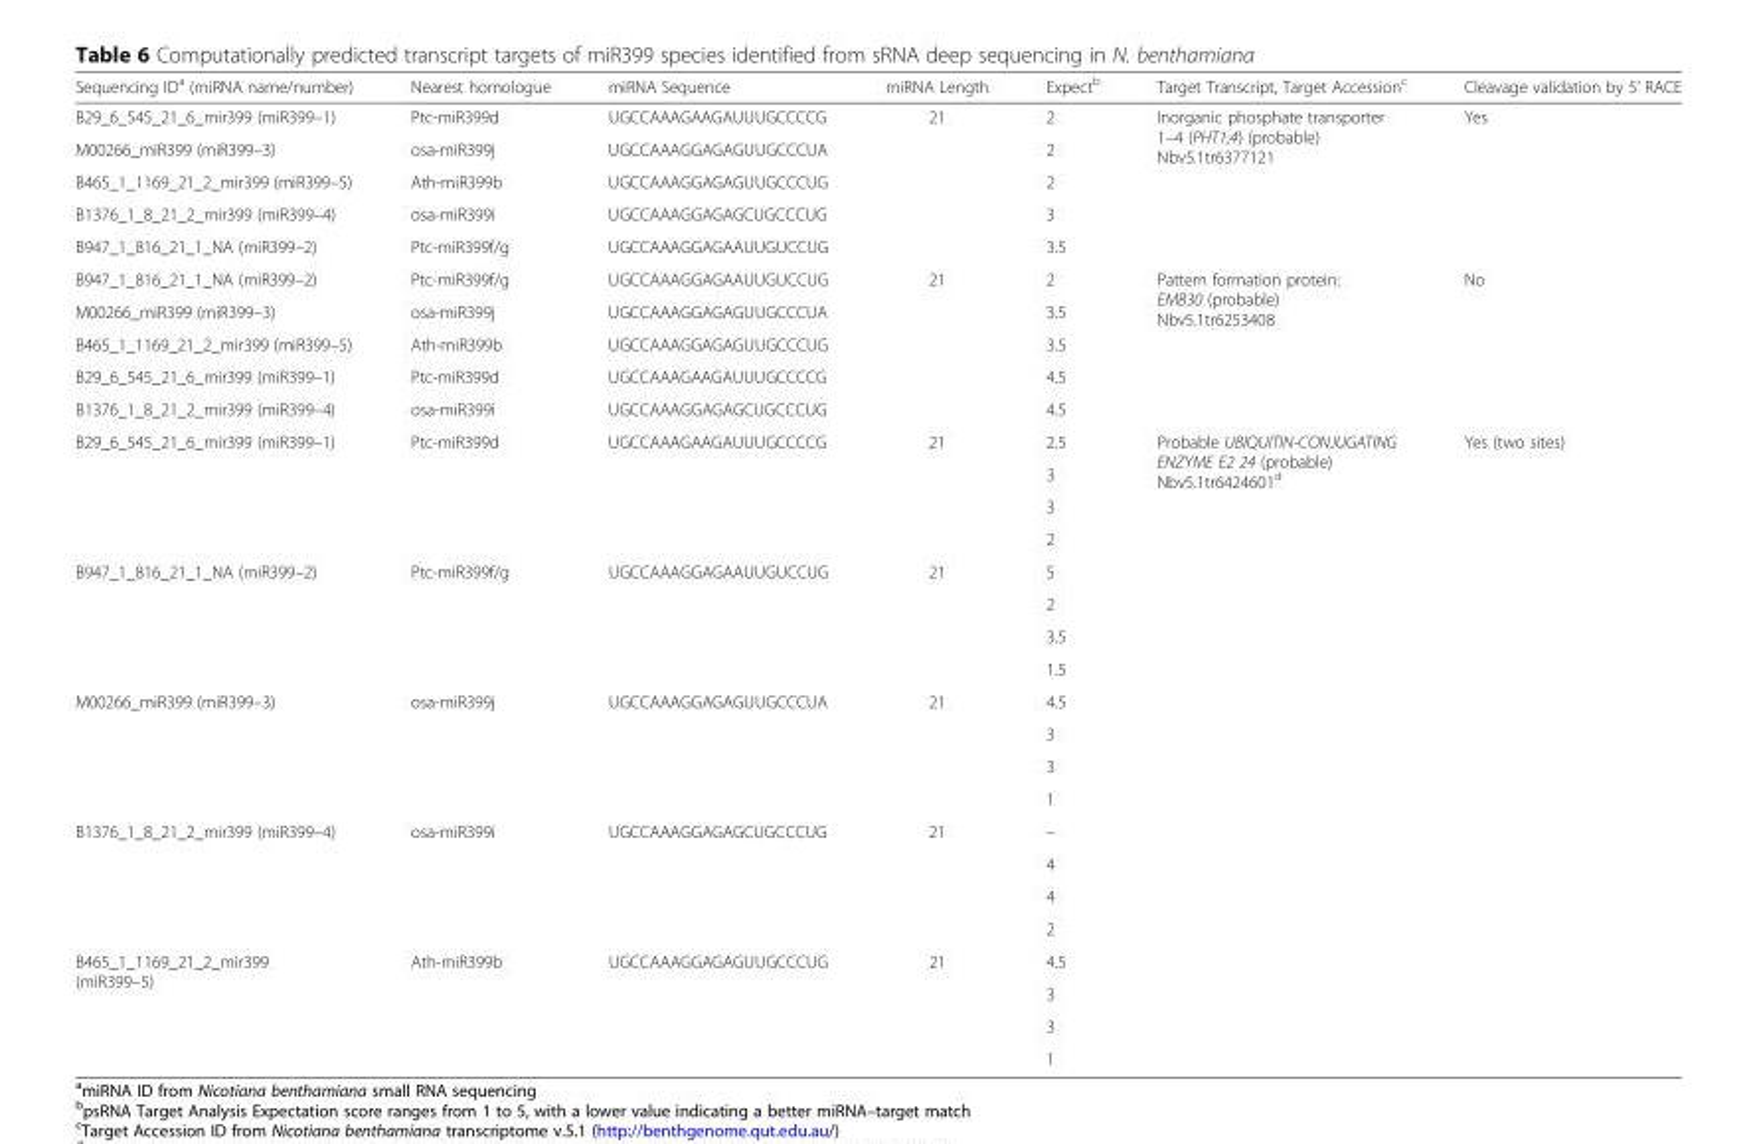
<table><thead><tr><td>Sequencing ID<sup>a</sup> (miRNA name/number)</td><td>Nearest homologue</td><td>miRNA Sequence</td><td>miRNA Length</td><td>Expect<sup>b</sup></td><td>Target Transcript, Target Accession<sup>c</sup></td><td>Cleavage validation by 5’ RACE</td></tr></thead><tbody><tr><td>B29_6_545_21_6_mir399 (miR399–1)</td><td>Ptc-miR399d</td><td>UGCCAAAGAAGAUUUGCCCCG</td><td rowspan="5">21</td><td>2</td><td rowspan="5">Inorganic phosphate transporter 1–4 (PHT1;4) (probable) Nbv5.1tr6377121</td><td rowspan="5">Yes</td></tr><tr><td>M00266_miR399 (miR399–3)</td><td>osa-miR399j</td><td>UGCCAAAGGAGAGUUGCCCUA</td><td>2</td></tr><tr><td>B465_1_1169_21_2_mir399 (miR399–5)</td><td>Ath-miR399b</td><td>UGCCAAAGGAGAGUUGCCCUG</td><td>2</td></tr><tr><td>B1376_1_8_21_2_mir399 (miR399–4)</td><td>osa-miR399i</td><td>UGCCAAAGGAGAGCUGCCCUG</td><td>3</td></tr><tr><td>B947_1_816_21_1_NA (miR399–2)</td><td>Ptc-miR399f/g</td><td>UGCCAAAGGAGAAUUGUCCUG</td><td>3.5</td></tr><tr><td>B947_1_816_21_1_NA (miR399–2)</td><td>Ptc-miR399f/g</td><td>UGCCAAAGGAGAAUUGUCCUG</td><td rowspan="5">21</td><td>2</td><td rowspan="5">Pattern formation protein: EMB30 (probable) Nbv5.1tr6253408</td><td rowspan="5">No</td></tr><tr><td>M00266_miR399 (miR399–3)</td><td>osa-miR399j</td><td>UGCCAAAGGAGAGUUGCCCUA</td><td>3.5</td></tr><tr><td>B465_1_1169_21_2_mir399 (miR399–5)</td><td>Ath-miR399b</td><td>UGCCAAAGGAGAGUUGCCCUG</td><td>3.5</td></tr><tr><td>B29_6_545_21_6_mir399 (miR399–1)</td><td>Ptc-miR399d</td><td>UGCCAAAGAAGAUUUGCCCCG</td><td>4.5</td></tr><tr><td>B1376_1_8_21_2_mir399 (miR399–4)</td><td>osa-miR399i</td><td>UGCCAAAGGAGAGCUGCCCUG</td><td>4.5</td></tr><tr><td rowspan="4">B29_6_545_21_6_mir399 (miR399–1)</td><td rowspan="4">Ptc-miR399d</td><td rowspan="4">UGCCAAAGAAGAUUUGCCCCG</td><td rowspan="4">21</td><td>2.5</td><td rowspan="20">Probable UBIQUITIN-CONJUGATING ENZYME E2 24 (probable) Nbv5.1tr6424601<sup>d</sup></td><td rowspan="20">Yes (two sites)</td></tr><tr><td>3</td></tr><tr><td>3</td></tr><tr><td>2</td></tr><tr><td rowspan="4">B947_1_816_21_1_NA (miR399–2)</td><td rowspan="4">Ptc-miR399f/g</td><td rowspan="4">UGCCAAAGGAGAAUUGUCCUG</td><td rowspan="4">21</td><td>5</td></tr><tr><td>2</td></tr><tr><td>3.5</td></tr><tr><td>1.5</td></tr><tr><td rowspan="4">M00266_miR399 (miR399–3)</td><td rowspan="4">osa-miR399j</td><td rowspan="4">UGCCAAAGGAGAGUUGCCCUA</td><td rowspan="4">21</td><td>4.5</td></tr><tr><td>3</td></tr><tr><td>3</td></tr><tr><td>1</td></tr><tr><td rowspan="4">B1376_1_8_21_2_mir399 (miR399–4)</td><td rowspan="4">osa-miR399i</td><td rowspan="4">UGCCAAAGGAGAGCUGCCCUG</td><td rowspan="4">21</td><td>–</td></tr><tr><td>4</td></tr><tr><td>4</td></tr><tr><td>2</td></tr><tr><td rowspan="4">B465_1_1169_21_2_mir399 (miR399–5)</td><td rowspan="4">Ath-miR399b</td><td rowspan="4">UGCCAAAGGAGAGUUGCCCUG</td><td rowspan="4">21</td><td>4.5</td></tr><tr><td>3</td></tr><tr><td>3</td></tr><tr><td>1</td></tr></tbody></table>